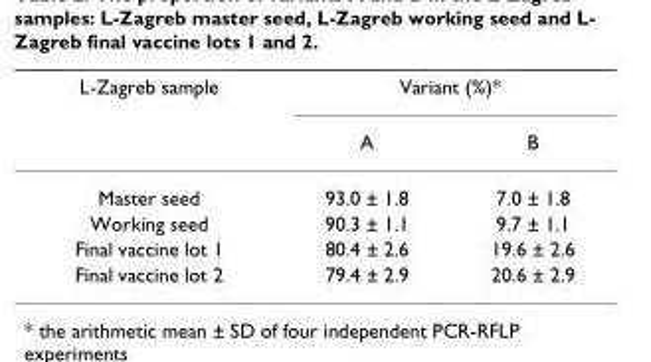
<table><thead><tr><td rowspan="2">L-Zagreb sample</td><td colspan="2">Variant (%)*</td></tr><tr><td>A</td><td>B</td></tr></thead><tbody><tr><td>Master seed</td><td>93.0 ± 1.8</td><td>7.0 ± 1.8</td></tr><tr><td>Working seed</td><td>90.3 ± 1.1</td><td>9.7 ± 1.1</td></tr><tr><td>Final vaccine lot 1</td><td>80.4 ± 2.6</td><td>19.6 ± 2.6</td></tr><tr><td>Final vaccine lot 2</td><td>79.4 ± 2.9</td><td>20.6 ± 2.9</td></tr></tbody></table>